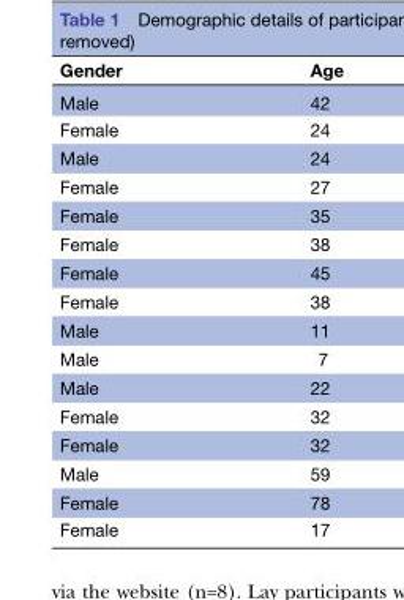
<table><thead><tr><td>Gender</td><td>Age</td></tr></thead><tbody><tr><td>Male</td><td>42</td></tr><tr><td>Female</td><td>24</td></tr><tr><td>Male</td><td>24</td></tr><tr><td>Female</td><td>27</td></tr><tr><td>Female</td><td>35</td></tr><tr><td>Female</td><td>38</td></tr><tr><td>Female</td><td>45</td></tr><tr><td>Female</td><td>38</td></tr><tr><td>Male</td><td>11</td></tr><tr><td>Male</td><td>7</td></tr><tr><td>Male</td><td>22</td></tr><tr><td>Female</td><td>32</td></tr><tr><td>Female</td><td>32</td></tr><tr><td>Male</td><td>59</td></tr><tr><td>Female</td><td>78</td></tr><tr><td>Female</td><td>17</td></tr></tbody></table>